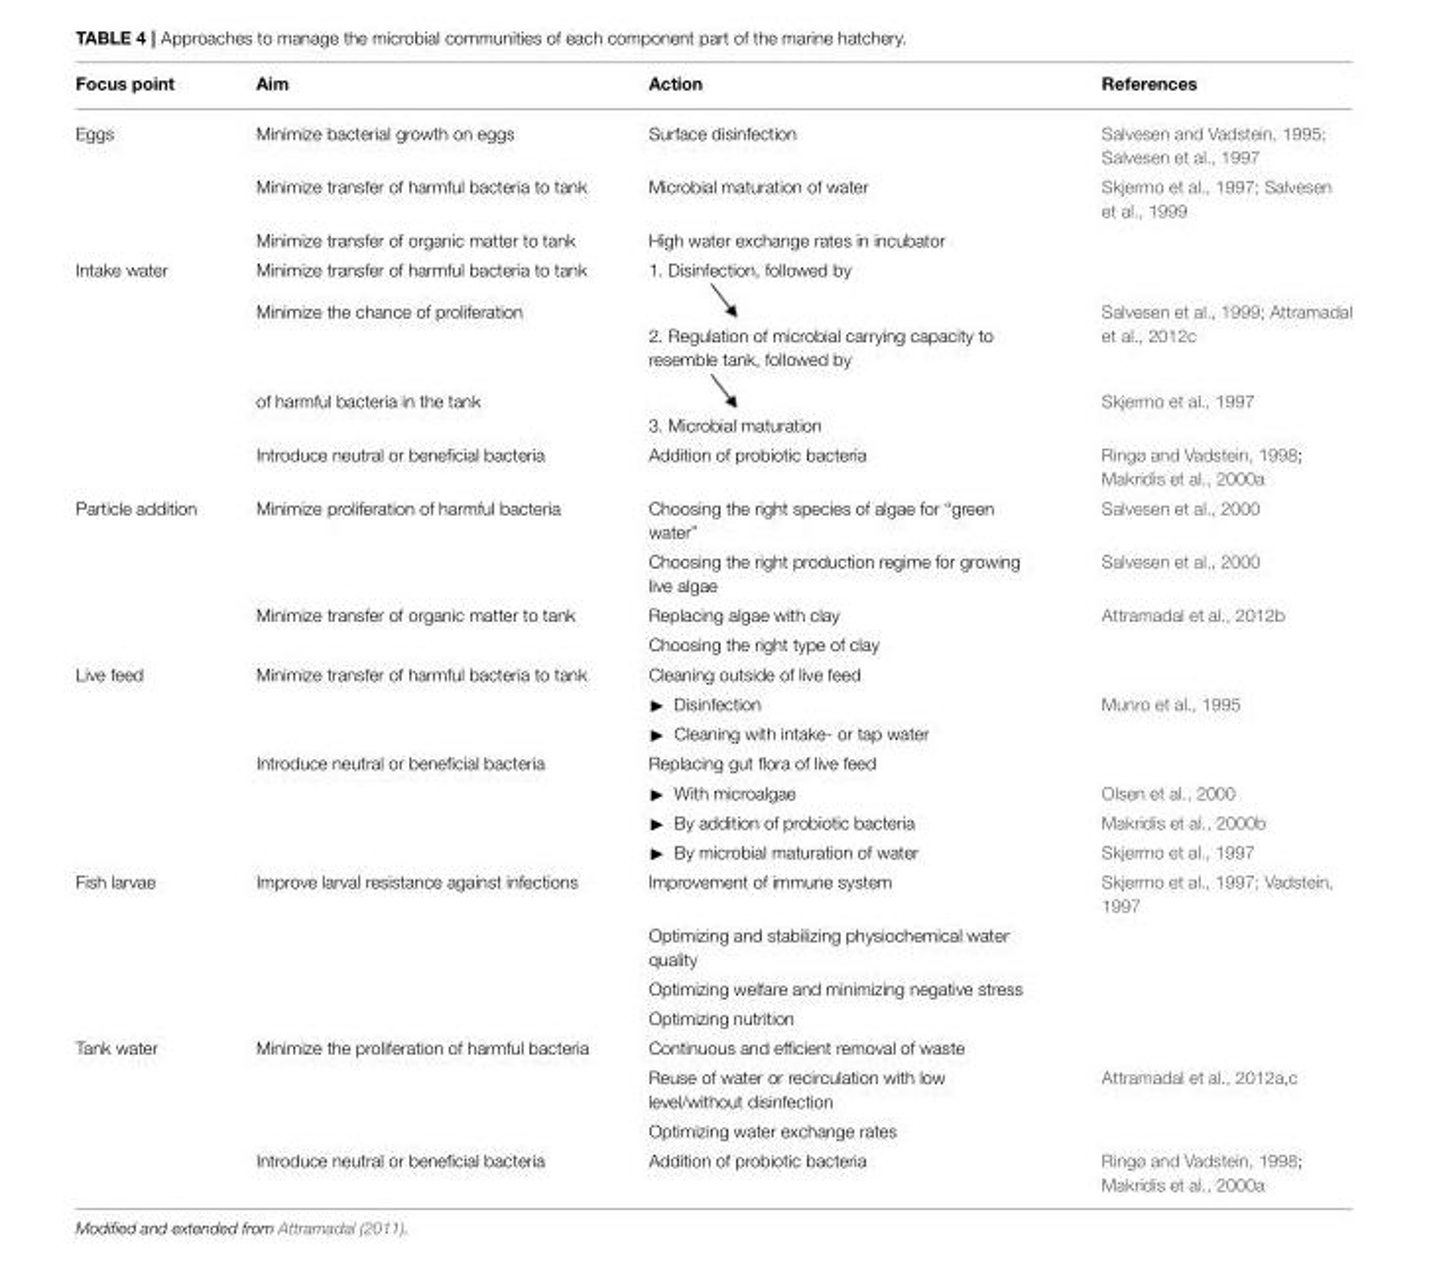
<table><thead><tr><td>Focus point</td><td>Aim</td><td>Action</td><td>References</td></tr></thead><tbody><tr><td rowspan="3">Eggs</td><td>Minimize bacterial growth on eggs</td><td>Surface disinfection</td><td>Salvesen and Vadstein, 1995; Salvesen et al., 1997</td></tr><tr><td>Minimize transfer of harmful bacteria to tank</td><td>Microbial maturation of water</td><td>Skjermo et al., 1997; Salvesen et al., 1999</td></tr><tr><td>Minimize transfer of organic matter to tank</td><td>High water exchange rates in incubator</td><td></td></tr><tr><td rowspan="4">Intake water</td><td>Minimize transfer of harmful bacteria to tank</td><td>1. Disinfection, followed by</td><td></td></tr><tr><td>Minimize the chance of proliferation</td><td>2. Regulation of microbial carrying capacity to resemble tank, followed by</td><td>Salvesen et al., 1999; Attramadal et al., 2012c</td></tr><tr><td>of harmful bacteria in the tank</td><td>3. Microbial maturation</td><td>Skjermo et al., 1997</td></tr><tr><td>Introduce neutral or beneficial bacteria</td><td>Addition of probiotic bacteria</td><td>Ringø and Vadstein, 1998; Makridis et al., 2000a</td></tr><tr><td rowspan="4">Particle addition</td><td>Minimize proliferation of harmful bacteria</td><td>Choosing the right species of algae for “green water”</td><td>Salvesen et al., 2000</td></tr><tr><td></td><td>Choosing the right production regime for growing live algae</td><td>Salvesen et al., 2000</td></tr><tr><td>Minimize transfer of organic matter to tank</td><td>Replacing algae with clay</td><td>Attramadal et al., 2012b</td></tr><tr><td></td><td>Choosing the right type of clay</td><td></td></tr><tr><td rowspan="7">Live feed</td><td>Minimize transfer of harmful bacteria to tank</td><td>Cleaning outside of live feed</td><td></td></tr><tr><td></td><td>◮ Disinfection</td><td>Munro et al., 1995</td></tr><tr><td></td><td>◮ Cleaning with intake- or tap water</td><td></td></tr><tr><td>Introduce neutral or beneficial bacteria</td><td>Replacing gut flora of live feed</td><td></td></tr><tr><td></td><td>◮ With microalgae</td><td>Olsen et al., 2000</td></tr><tr><td></td><td>◮ By addition of probiotic bacteria</td><td>Makridis et al., 2000b</td></tr><tr><td></td><td>◮ By microbial maturation of water</td><td>Skjermo et al., 1997</td></tr><tr><td rowspan="4">Fish larvae</td><td>Improve larval resistance against infections</td><td>Improvement of immune system</td><td>Skjermo et al., 1997; Vadstein, 1997</td></tr><tr><td></td><td>Optimizing and stabilizing physiochemical water quality</td><td></td></tr><tr><td></td><td>Optimizing welfare and minimizing negative stress</td><td></td></tr><tr><td></td><td>Optimizing nutrition</td><td></td></tr><tr><td rowspan="4">Tank water</td><td>Minimize the proliferation of harmful bacteria</td><td>Continuous and efficient removal of waste</td><td></td></tr><tr><td></td><td>Reuse of water or recirculation with low level/without disinfection</td><td>Attramadal et al., 2012a,c</td></tr><tr><td></td><td>Optimizing water exchange rates</td><td></td></tr><tr><td>Introduce neutral or beneficial bacteria</td><td>Addition of probiotic bacteria</td><td>Ringø and Vadstein, 1998; Makridis et al., 2000a</td></tr></tbody></table>